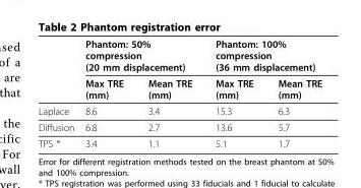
<table><thead><tr><td rowspan="2"></td><td colspan="2">Phantom: 50% compression (20 mm displacement)</td><td colspan="2">Phantom: 100% compression (36 mm displacement)</td></tr><tr><td>Max TRE (mm)</td><td>Mean TRE (mm)</td><td>Max TRE (mm)</td><td>Mean TRE (mm)</td></tr></thead><tbody><tr><td>Laplace</td><td>8.6</td><td>3.4</td><td>15.3</td><td>6.3</td></tr><tr><td>Diffusion</td><td>6.8</td><td>2.7</td><td>13.6</td><td>5.7</td></tr><tr><td>TPS *</td><td>3.4</td><td>1.1</td><td>5.1</td><td>1.7</td></tr></tbody></table>